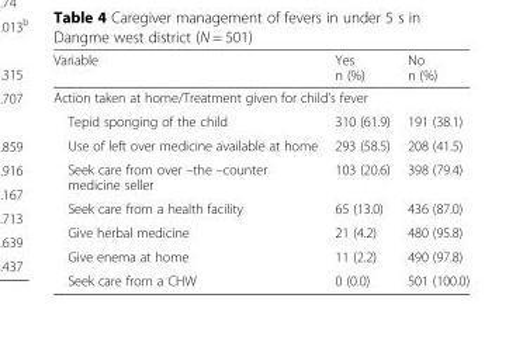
<table><thead><tr><td>Variable</td><td>Yes n (%)</td><td>No n (%)</td></tr></thead><tbody><tr><td colspan="3">Action taken at home/Treatment given for child’s fever</td></tr><tr><td>Tepid sponging of the child</td><td>310 (61.9)</td><td>191 (38.1)</td></tr><tr><td>Use of left over medicine available at home</td><td>293 (58.5)</td><td>208 (41.5)</td></tr><tr><td>Seek care from over –the –counter medicine seller</td><td>103 (20.6)</td><td>398 (79.4)</td></tr><tr><td>Seek care from a health facility</td><td>65 (13.0)</td><td>436 (87.0)</td></tr><tr><td>Give herbal medicine</td><td>21 (4.2)</td><td>480 (95.8)</td></tr><tr><td>Give enema at home</td><td>11 (2.2)</td><td>490 (97.8)</td></tr><tr><td>Seek care from a CHW</td><td>0 (0.0)</td><td>501 (100.0)</td></tr></tbody></table>